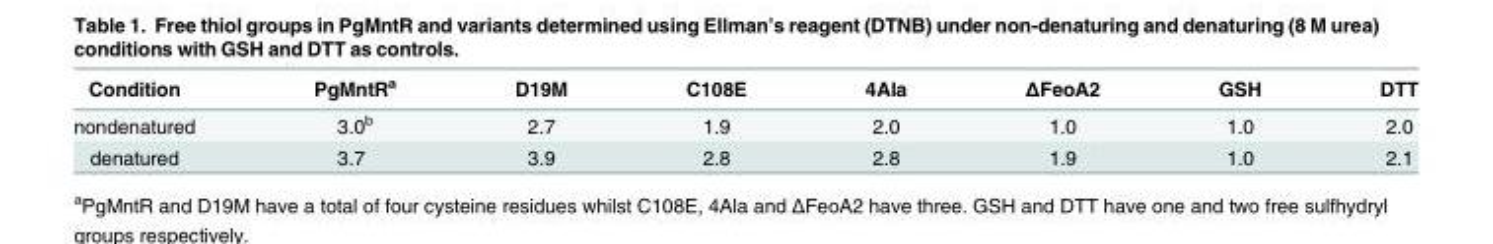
<table><thead><tr><td>Condition</td><td>PgMntR<sup>a</sup></td><td>D19M</td><td>C108E</td><td>4Ala</td><td>ΔFeoA2</td><td>GSH</td><td>DTT</td></tr></thead><tbody><tr><td>nondenatured</td><td>3.0<sup>b</sup></td><td>2.7</td><td>1.9</td><td>2.0</td><td>1.0</td><td>1.0</td><td>2.0</td></tr><tr><td>denatured</td><td>3.7</td><td>3.9</td><td>2.8</td><td>2.8</td><td>1.9</td><td>1.0</td><td>2.1</td></tr></tbody></table>